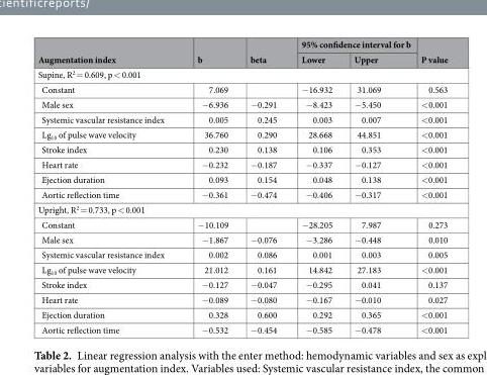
<table><thead><tr><td rowspan="2">Augmentation index</td><td rowspan="2">b</td><td rowspan="2">beta</td><td colspan="2">95% confidence interval for b</td><td rowspan="2">P value</td></tr><tr><td>Lower</td><td>Upper</td></tr></thead><tbody><tr><td colspan="6">Supine, R<sup>2</sup> = 0.609, p &lt; 0.001</td></tr><tr><td>Constant</td><td>7.069</td><td></td><td>−16.932</td><td>31.069</td><td>0.563</td></tr><tr><td>Male sex</td><td>−6.936</td><td>−0.291</td><td>−8.423</td><td>−5.450</td><td>&lt;0.001</td></tr><tr><td>Systemic vascular resistance index</td><td>0.005</td><td>0.245</td><td>0.003</td><td>0.007</td><td>&lt;0.001</td></tr><tr><td>Lg<sub>10</sub> of pulse wave velocity</td><td>36.760</td><td>0.290</td><td>28.668</td><td>44.851</td><td>&lt;0.001</td></tr><tr><td>Stroke index</td><td>0.230</td><td>0.138</td><td>0.106</td><td>0.353</td><td>&lt;0.001</td></tr><tr><td>Heart rate</td><td>−0.232</td><td>−0.187</td><td>−0.337</td><td>−0.127</td><td>&lt;0.001</td></tr><tr><td>Ejection duration</td><td>0.093</td><td>0.154</td><td>0.048</td><td>0.138</td><td>&lt;0.001</td></tr><tr><td>Aortic reflection time</td><td>−0.361</td><td>−0.474</td><td>−0.406</td><td>−0.317</td><td>&lt;0.001</td></tr><tr><td colspan="6">Upright, R<sup>2</sup> = 0.733, p &lt; 0.001</td></tr><tr><td>Constant</td><td>−10.109</td><td></td><td>−28.205</td><td>7.987</td><td>0.273</td></tr><tr><td>Male sex</td><td>−1.867</td><td>−0.076</td><td>−3.286</td><td>−0.448</td><td>0.010</td></tr><tr><td>Systemic vascular resistance index</td><td>0.002</td><td>0.086</td><td>0.001</td><td>0.003</td><td>0.005</td></tr><tr><td>Lg<sub>10</sub> of pulse wave velocity</td><td>21.012</td><td>0.161</td><td>14.842</td><td>27.183</td><td>&lt;0.001</td></tr><tr><td>Stroke index</td><td>−0.127</td><td>−0.047</td><td>−0.295</td><td>0.041</td><td>0.137</td></tr><tr><td>Heart rate</td><td>−0.089</td><td>−0.080</td><td>−0.167</td><td>−0.010</td><td>0.027</td></tr><tr><td>Ejection duration</td><td>0.328</td><td>0.600</td><td>0.292</td><td>0.365</td><td>&lt;0.001</td></tr><tr><td>Aortic reflection time</td><td>−0.532</td><td>−0.454</td><td>−0.585</td><td>−0.478</td><td>&lt;0.001</td></tr></tbody></table>